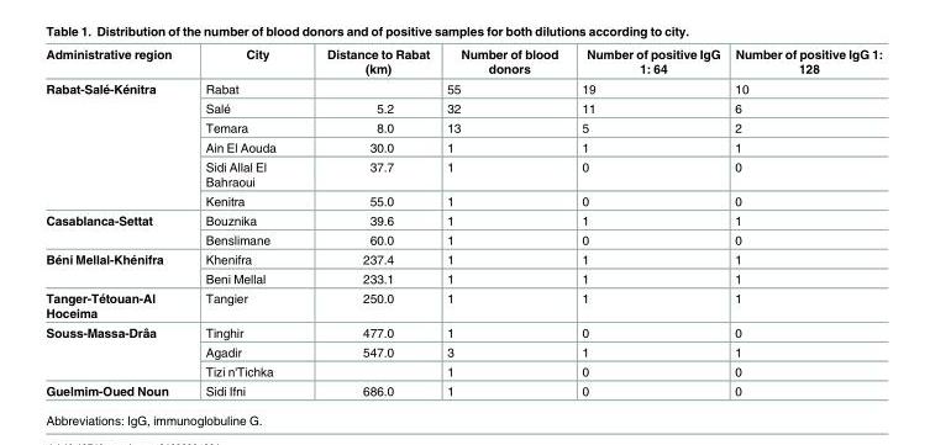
<table><thead><tr><td>Administrative region</td><td>City</td><td>Distance to Rabat (km)</td><td>Number of blood donors</td><td>Number of positive IgG 1: 64</td><td>Number of positive IgG 1: 128</td></tr></thead><tbody><tr><td rowspan="6">Rabat-Salé-Kénitra</td><td>Rabat</td><td></td><td>55</td><td>19</td><td>10</td></tr><tr><td>Salé</td><td>5.2</td><td>32</td><td>11</td><td>6</td></tr><tr><td>Temara</td><td>8.0</td><td>13</td><td>5</td><td>2</td></tr><tr><td>Ain El Aouda</td><td>30.0</td><td>1</td><td>1</td><td>1</td></tr><tr><td>Sidi Allal El Bahraoui</td><td>37.7</td><td>1</td><td>0</td><td>0</td></tr><tr><td>Kenitra</td><td>55.0</td><td>1</td><td>0</td><td>0</td></tr><tr><td rowspan="2">Casablanca-Settat</td><td>Bouznika</td><td>39.6</td><td>1</td><td>1</td><td>1</td></tr><tr><td>Benslimane</td><td>60.0</td><td>1</td><td>0</td><td>0</td></tr><tr><td rowspan="2">Béni Mellal-Khénifra</td><td>Khenifra</td><td>237.4</td><td>1</td><td>1</td><td>1</td></tr><tr><td>Beni Mellal</td><td>233.1</td><td>1</td><td>1</td><td>1</td></tr><tr><td>Tanger-Tétouan-Al Hoceima</td><td>Tangier</td><td>250.0</td><td>1</td><td>1</td><td>1</td></tr><tr><td rowspan="3">Souss-Massa-Drâa</td><td>Tinghir</td><td>477.0</td><td>1</td><td>0</td><td>0</td></tr><tr><td>Agadir</td><td>547.0</td><td>3</td><td>1</td><td>1</td></tr><tr><td>Tizi n&#x27;Tichka</td><td></td><td>1</td><td>0</td><td>0</td></tr><tr><td>Guelmim-Oued Noun</td><td>Sidi Ifni</td><td>686.0</td><td>1</td><td>0</td><td>0</td></tr></tbody></table>